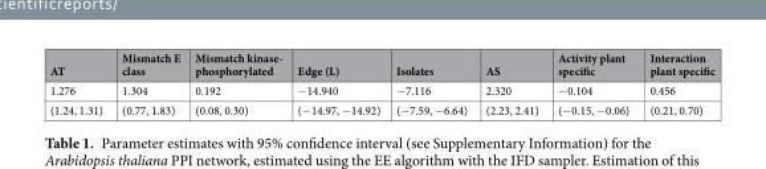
<table><thead><tr><td>AT</td><td>Mismatch E class</td><td>Mismatch kinase- phosphorylated</td><td>Edge (L)</td><td>Isolates</td><td>AS</td><td>Activity plant specific</td><td>Interaction plant specific</td></tr></thead><tbody><tr><td>1.276</td><td>1.304</td><td>0.192</td><td>−14.940</td><td>−7.116</td><td>2.320</td><td>−0.104</td><td>0.456</td></tr><tr><td>(1.24, 1.31)</td><td>(0.77, 1.83)</td><td>(0.08, 0.30)</td><td>(−14.97, −14.92)</td><td>(−7.59, −6.64)</td><td>(2.23, 2.41)</td><td>(−0.15, −0.06)</td><td>(0.21, 0.70)</td></tr></tbody></table>